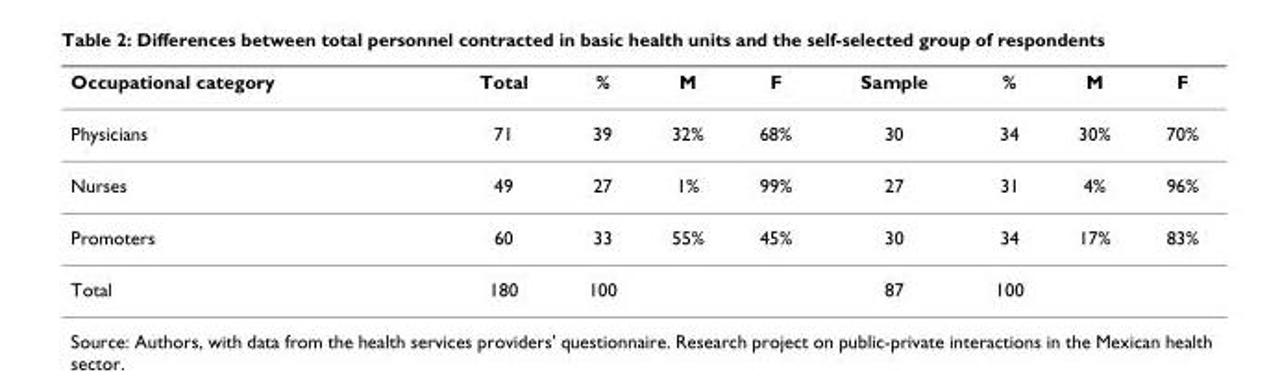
<table><thead><tr><td>Occupational category</td><td>Total</td><td>%</td><td>M</td><td>F</td><td>Sample</td><td>%</td><td>M</td><td>F</td></tr></thead><tbody><tr><td>Physicians</td><td>71</td><td>39</td><td>32%</td><td>68%</td><td>30</td><td>34</td><td>30%</td><td>70%</td></tr><tr><td>Nurses</td><td>49</td><td>27</td><td>1%</td><td>99%</td><td>27</td><td>31</td><td>4%</td><td>96%</td></tr><tr><td>Promoters</td><td>60</td><td>33</td><td>55%</td><td>45%</td><td>30</td><td>34</td><td>17%</td><td>83%</td></tr><tr><td>Total</td><td>180</td><td>100</td><td></td><td></td><td>87</td><td>100</td><td></td><td></td></tr></tbody></table>